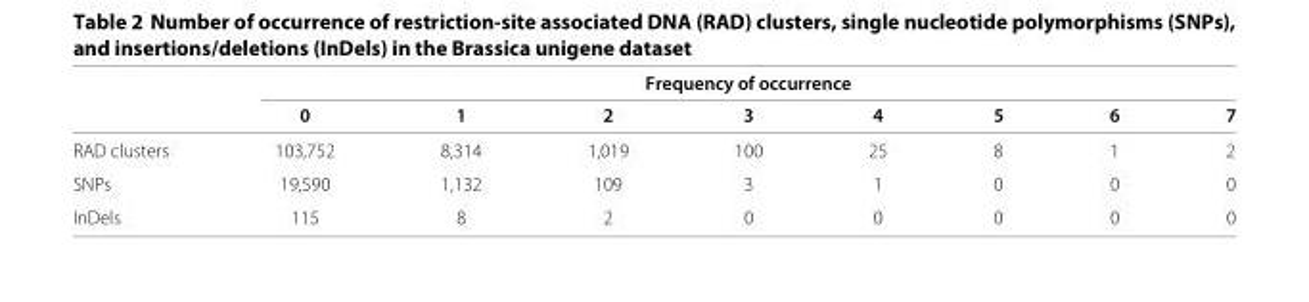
<table><thead><tr><td rowspan="2"></td><td colspan="8">Frequency of occurrence</td></tr><tr><td>0</td><td>1</td><td>2</td><td>3</td><td>4</td><td>5</td><td>6</td><td>7</td></tr></thead><tbody><tr><td>RAD clusters</td><td>103,752</td><td>8,314</td><td>1,019</td><td>100</td><td>25</td><td>8</td><td>1</td><td>2</td></tr><tr><td>SNPs</td><td>19,590</td><td>1,132</td><td>109</td><td>3</td><td>1</td><td>0</td><td>0</td><td>0</td></tr><tr><td>InDels</td><td>115</td><td>8</td><td>2</td><td>0</td><td>0</td><td>0</td><td>0</td><td>0</td></tr></tbody></table>